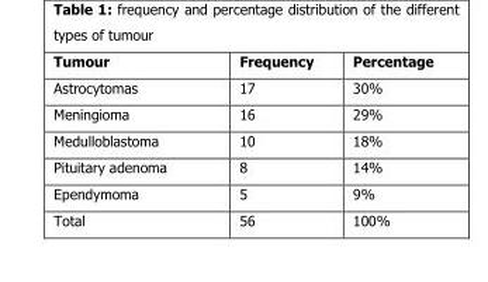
<table><thead><tr><td>Tumour</td><td>Frequency</td><td>Percentage</td></tr></thead><tbody><tr><td>Astrocytomas</td><td>17</td><td>30%</td></tr><tr><td>Meningioma</td><td>16</td><td>29%</td></tr><tr><td>Medulloblastoma</td><td>10</td><td>18%</td></tr><tr><td>Pituitary adenoma</td><td>8</td><td>14%</td></tr><tr><td>Ependymoma</td><td>5</td><td>9%</td></tr><tr><td>Total</td><td>56</td><td>100%</td></tr></tbody></table>